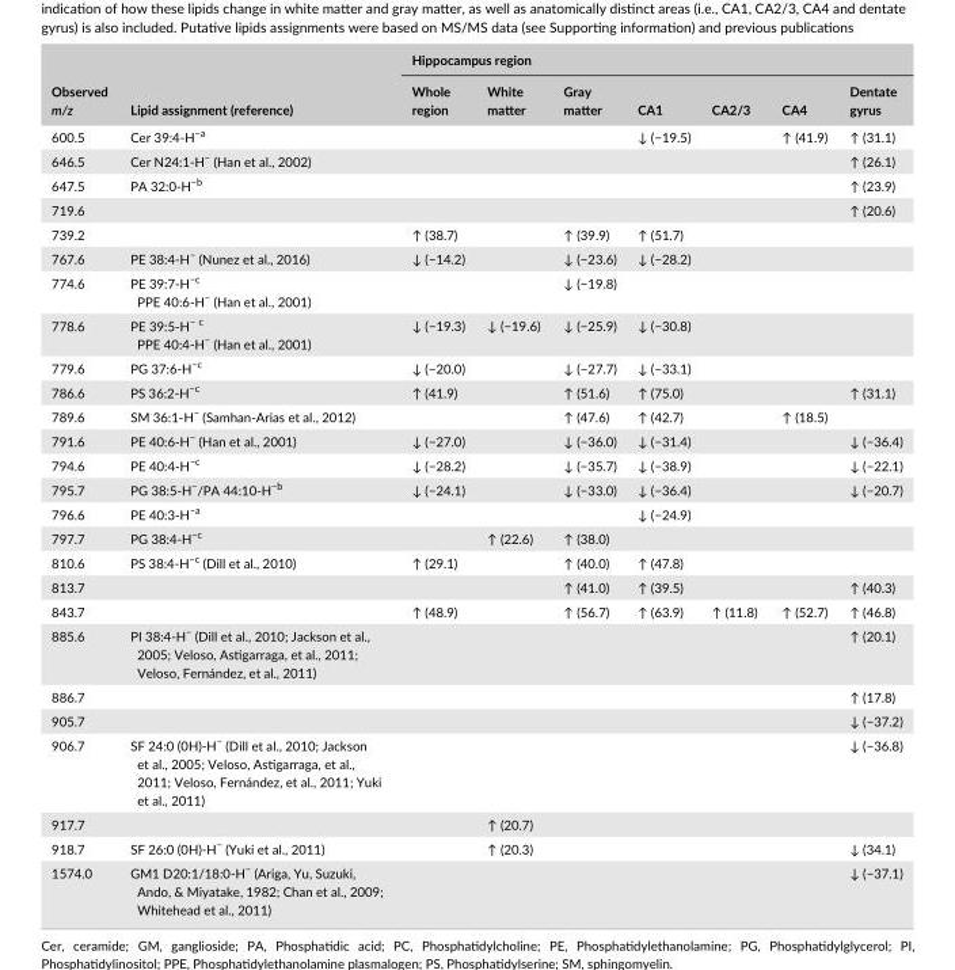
<table><thead><tr><td rowspan="2">Observed m/z</td><td rowspan="2">Lipid assignment (reference)</td><td colspan="7">Hippocampus region</td></tr><tr><td>Whole region</td><td>White matter</td><td>Gray matter</td><td>CA1</td><td>CA2/3</td><td>CA4</td><td>Dentate gyrus</td></tr></thead><tbody><tr><td>600.5</td><td>Cer 39:4- H<sup>−</sup>a</td><td></td><td></td><td></td><td>↓ (−19.5)</td><td></td><td>↑ (41.9)</td><td>↑ (31.1)</td></tr><tr><td>646.5</td><td>Cer N24:1- H<sup>−</sup> (Han et al., 2002)</td><td></td><td></td><td></td><td></td><td></td><td></td><td>↑ (26.1)</td></tr><tr><td>647.5</td><td>PA 32:0- H<sup>−</sup>b</td><td></td><td></td><td></td><td></td><td></td><td></td><td>↑ (23.9)</td></tr><tr><td>719.6</td><td></td><td></td><td></td><td></td><td></td><td></td><td></td><td>↑ (20.6)</td></tr><tr><td>739.2</td><td></td><td>↑ (38.7)</td><td></td><td>↑ (39.9)</td><td>↑ (51.7)</td><td></td><td></td><td></td></tr><tr><td>767.6</td><td>PE 38:4- H<sup>−</sup> (Nunez et al., 2016)</td><td>↓ (−14.2)</td><td></td><td>↓ (−23.6)</td><td>↓ (−28.2)</td><td></td><td></td><td></td></tr><tr><td>774.6</td><td>PE 39:7- H<sup>−</sup>c PPE 40:6- H<sup>−</sup> (Han et al., 2001)</td><td></td><td></td><td>↓ (−19.8)</td><td></td><td></td><td></td><td></td></tr><tr><td>778.6</td><td>PE 39:5- H<sup>−</sup> c PPE 40:4- H<sup>−</sup> (Han et al., 2001)</td><td>↓ (−19.3)</td><td>↓ (−19.6)</td><td>↓ (−25.9)</td><td>↓ (−30.8)</td><td></td><td></td><td></td></tr><tr><td>779.6</td><td>PG 37:6- H<sup>−</sup>c</td><td>↓ (−20.0)</td><td></td><td>↓ (−27.7)</td><td>↓ (−33.1)</td><td></td><td></td><td></td></tr><tr><td>786.6</td><td>PS 36:2- H<sup>−</sup>c</td><td>↑ (41.9)</td><td></td><td>↑ (51.6)</td><td>↑ (75.0)</td><td></td><td></td><td>↑ (31.1)</td></tr><tr><td>789.6</td><td>SM 36:1- H<sup>−</sup> (Samhan- Arias et al., 2012)</td><td></td><td></td><td>↑ (47.6)</td><td>↑ (42.7)</td><td></td><td>↑ (18.5)</td><td></td></tr><tr><td>791.6</td><td>PE 40:6- H<sup>−</sup> (Han et al., 2001)</td><td>↓ (−27.0)</td><td></td><td>↓ (−36.0)</td><td>↓ (−31.4)</td><td></td><td></td><td>↓ (−36.4)</td></tr><tr><td>794.6</td><td>PE 40:4- H<sup>−</sup>c</td><td>↓ (−28.2)</td><td></td><td>↓ (−35.7)</td><td>↓ (−38.9)</td><td></td><td></td><td>↓ (−22.1)</td></tr><tr><td>795.7</td><td>PG 38:5- H<sup>−</sup>/PA 44:10- H<sup>−</sup>b</td><td>↓ (−24.1)</td><td></td><td>↓ (−33.0)</td><td>↓ (−36.4)</td><td></td><td></td><td>↓ (−20.7)</td></tr><tr><td>796.6</td><td>PE 40:3- H<sup>−</sup>a</td><td></td><td></td><td></td><td>↓ (−24.9)</td><td></td><td></td><td></td></tr><tr><td>797.7</td><td>PG 38:4- H<sup>−</sup>c</td><td></td><td>↑ (22.6)</td><td>↑ (38.0)</td><td></td><td></td><td></td><td></td></tr><tr><td>810.6</td><td>PS 38:4- H<sup>−</sup>c (Dill et al., 2010)</td><td>↑ (29.1)</td><td></td><td>↑ (40.0)</td><td>↑ (47.8)</td><td></td><td></td><td></td></tr><tr><td>813.7</td><td></td><td></td><td></td><td>↑ (41.0)</td><td>↑ (39.5)</td><td></td><td></td><td>↑ (40.3)</td></tr><tr><td>843.7</td><td></td><td>↑ (48.9)</td><td></td><td>↑ (56.7)</td><td>↑ (63.9)</td><td>↑ (11.8)</td><td>↑ (52.7)</td><td>↑ (46.8)</td></tr><tr><td>885.6</td><td>PI 38:4- H<sup>−</sup> (Dill et al., 2010; Jackson et al., 2005; Veloso, Astigarraga, et al., 2011; Veloso, Fernández, et al., 2011)</td><td></td><td></td><td></td><td></td><td></td><td></td><td>↑ (20.1)</td></tr><tr><td>886.7</td><td></td><td></td><td></td><td></td><td></td><td></td><td></td><td>↑ (17.8)</td></tr><tr><td>905.7</td><td></td><td></td><td></td><td></td><td></td><td></td><td></td><td>↓ (−37.2)</td></tr><tr><td>906.7</td><td>SF 24:0 (0H)- H<sup>−</sup> (Dill et al., 2010; Jackson et al., 2005; Veloso, Astigarraga, et al., 2011; Veloso, Fernández, et al., 2011; Yuki et al., 2011)</td><td></td><td></td><td></td><td></td><td></td><td></td><td>↓ (−36.8)</td></tr><tr><td>917.7</td><td></td><td></td><td>↑ (20.7)</td><td></td><td></td><td></td><td></td><td></td></tr><tr><td>918.7</td><td>SF 26:0 (0H)- H<sup>−</sup> (Yuki et al., 2011)</td><td></td><td>↑ (20.3)</td><td></td><td></td><td></td><td></td><td>↓ (34.1)</td></tr><tr><td>1574.0</td><td>GM1 D20:1/18:0- H<sup>−</sup> (Ariga, Yu, Suzuki, Ando, &amp; Miyatake, 1982; Chan et al., 2009; Whitehead et al., 2011)</td><td></td><td></td><td></td><td></td><td></td><td></td><td>↓ (−37.1)</td></tr></tbody></table>